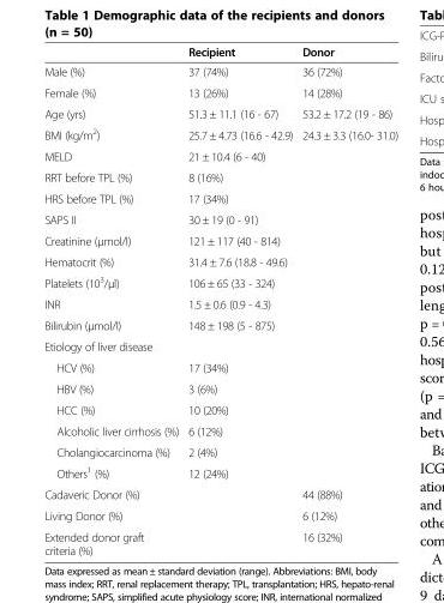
<table><thead><tr><td></td><td>Recipient</td><td>Donor</td></tr></thead><tbody><tr><td>Male (%)</td><td>37 (74%)</td><td>36 (72%)</td></tr><tr><td>Female (%)</td><td>13 (26%)</td><td>14 (28%)</td></tr><tr><td>Age (yrs)</td><td>51.3 ± 11.1 (16 - 67)</td><td>53.2 ± 17.2 (19 - 86)</td></tr><tr><td>BMI (kg/m<sup>2</sup>)</td><td>25.7 ± 4.73 (16.6 - 42.9)</td><td>24.3 ± 3.3 (16.0- 31.0)</td></tr><tr><td>MELD</td><td>21 ± 10.4 (6 - 40)</td><td></td></tr><tr><td>RRT before TPL (%)</td><td>8 (16%)</td><td></td></tr><tr><td>HRS before TPL (%)</td><td>17 (34%)</td><td></td></tr><tr><td>SAPS II</td><td>30 ± 19 (0 - 91)</td><td></td></tr><tr><td>Creatinine (μmol/l)</td><td>121 ± 117 (40 - 814)</td><td></td></tr><tr><td>Hematocrit (%)</td><td>31.4 ± 7.6 (18.8 - 49.6)</td><td></td></tr><tr><td>Platelets (10<sup>3</sup>/μl)</td><td>106 ± 65 (33 - 324)</td><td></td></tr><tr><td>INR</td><td>1.5 ± 0.6 (0.9 - 4.3)</td><td></td></tr><tr><td>Bilirubin (μmol/l)</td><td>148 ± 198 (5 - 875)</td><td></td></tr><tr><td colspan="3">Etiology of liver disease</td></tr><tr><td>HCV (%)</td><td>17 (34%)</td><td></td></tr><tr><td>HBV (%)</td><td>3 (6%)</td><td></td></tr><tr><td>HCC (%)</td><td>10 (20%)</td><td></td></tr><tr><td>Alcoholic liver cirrhosis (%)</td><td>6 (12%)</td><td></td></tr><tr><td>Cholangiocarcinoma (%)</td><td>2 (4%)</td><td></td></tr><tr><td>Others<sup>1</sup> (%)</td><td>12 (24%)</td><td></td></tr><tr><td>Cadaveric Donor (%)</td><td></td><td>44 (88%)</td></tr><tr><td>Living Donor (%)</td><td></td><td>6 (12%)</td></tr><tr><td>Extended donor graft criteria (%)</td><td></td><td>16 (32%)</td></tr></tbody></table>